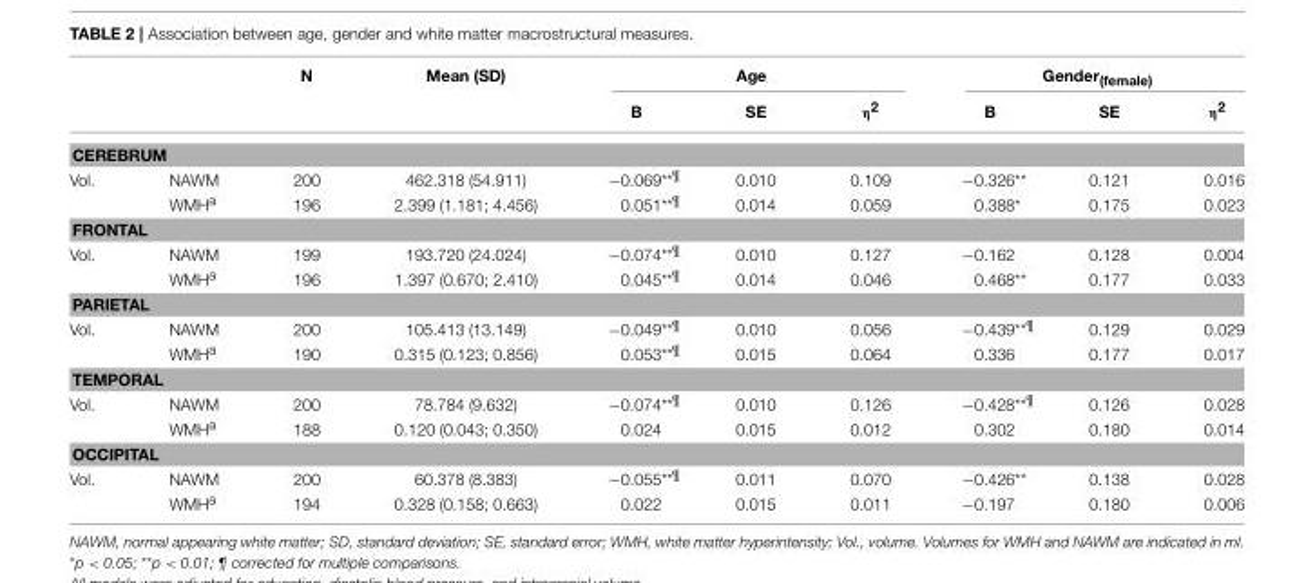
<table><thead><tr><td rowspan="2"></td><td rowspan="2"></td><td rowspan="2">N</td><td rowspan="2">Mean (SD)</td><td colspan="3">Age</td><td colspan="3">Gender<sub>(female)</sub></td></tr><tr><td>B</td><td>SE</td><td>η<sup>2</sup></td><td>B</td><td>SE</td><td>η<sup>2</sup></td></tr></thead><tbody><tr><td colspan="10">CEREBRUM</td></tr><tr><td rowspan="2">Vol.</td><td>NAWM</td><td>200</td><td>462.318 (54.911)</td><td>−0.069<sup>**¶</sup></td><td>0.010</td><td>0.109</td><td>−0.326**</td><td>0.121</td><td>0.016</td></tr><tr><td>WMH<sup>a</sup></td><td>196</td><td>2.399 (1.181; 4.456)</td><td>0.051<sup>**¶</sup></td><td>0.014</td><td>0.059</td><td>0.388*</td><td>0.175</td><td>0.023</td></tr><tr><td colspan="10">FRONTAL</td></tr><tr><td rowspan="2">Vol.</td><td>NAWM</td><td>199</td><td>193.720 (24.024)</td><td>−0.074<sup>**¶</sup></td><td>0.010</td><td>0.127</td><td>−0.162</td><td>0.128</td><td>0.004</td></tr><tr><td>WMH<sup>a</sup></td><td>196</td><td>1.397 (0.670; 2.410)</td><td>0.045<sup>**¶</sup></td><td>0.014</td><td>0.046</td><td>0.468**</td><td>0.177</td><td>0.033</td></tr><tr><td colspan="10">PARIETAL</td></tr><tr><td rowspan="2">Vol.</td><td>NAWM</td><td>200</td><td>105.413 (13.149)</td><td>−0.049<sup>**¶</sup></td><td>0.010</td><td>0.056</td><td>−0.439<sup>**¶</sup></td><td>0.129</td><td>0.029</td></tr><tr><td>WMH<sup>a</sup></td><td>190</td><td>0.315 (0.123; 0.856)</td><td>0.053<sup>**¶</sup></td><td>0.015</td><td>0.064</td><td>0.336</td><td>0.177</td><td>0.017</td></tr><tr><td colspan="10">TEMPORAL</td></tr><tr><td rowspan="2">Vol.</td><td>NAWM</td><td>200</td><td>78.784 (9.632)</td><td>−0.074<sup>**¶</sup></td><td>0.010</td><td>0.126</td><td>−0.428<sup>**¶</sup></td><td>0.126</td><td>0.028</td></tr><tr><td>WMH<sup>a</sup></td><td>188</td><td>0.120 (0.043; 0.350)</td><td>0.024</td><td>0.015</td><td>0.012</td><td>0.302</td><td>0.180</td><td>0.014</td></tr><tr><td colspan="10">OCCIPITAL</td></tr><tr><td rowspan="2">Vol.</td><td>NAWM</td><td>200</td><td>60.378 (8.383)</td><td>−0.055<sup>**¶</sup></td><td>0.011</td><td>0.070</td><td>−0.426**</td><td>0.138</td><td>0.028</td></tr><tr><td>WMH<sup>a</sup></td><td>194</td><td>0.328 (0.158; 0.663)</td><td>0.022</td><td>0.015</td><td>0.011</td><td>−0.197</td><td>0.180</td><td>0.006</td></tr></tbody></table>